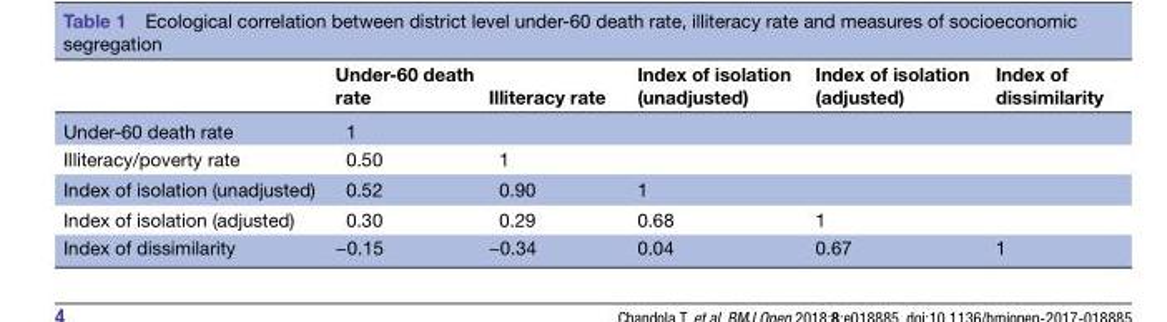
<table><thead><tr><td></td><td>Under-60 death rate</td><td>Illiteracy rate</td><td>Index of isolation (unadjusted)</td><td>Index of isolation (adjusted)</td><td>Index of dissimilarity</td></tr></thead><tbody><tr><td>Under-60 death rate</td><td>1</td><td></td><td></td><td></td><td></td></tr><tr><td>Illiteracy/poverty rate</td><td>0.50</td><td>1</td><td></td><td></td><td></td></tr><tr><td>Index of isolation (unadjusted)</td><td>0.52</td><td>0.90</td><td>1</td><td></td><td></td></tr><tr><td>Index of isolation (adjusted)</td><td>0.30</td><td>0.29</td><td>0.68</td><td>1</td><td></td></tr><tr><td>Index of dissimilarity</td><td>−0.15</td><td>−0.34</td><td>0.04</td><td>0.67</td><td>1</td></tr></tbody></table>